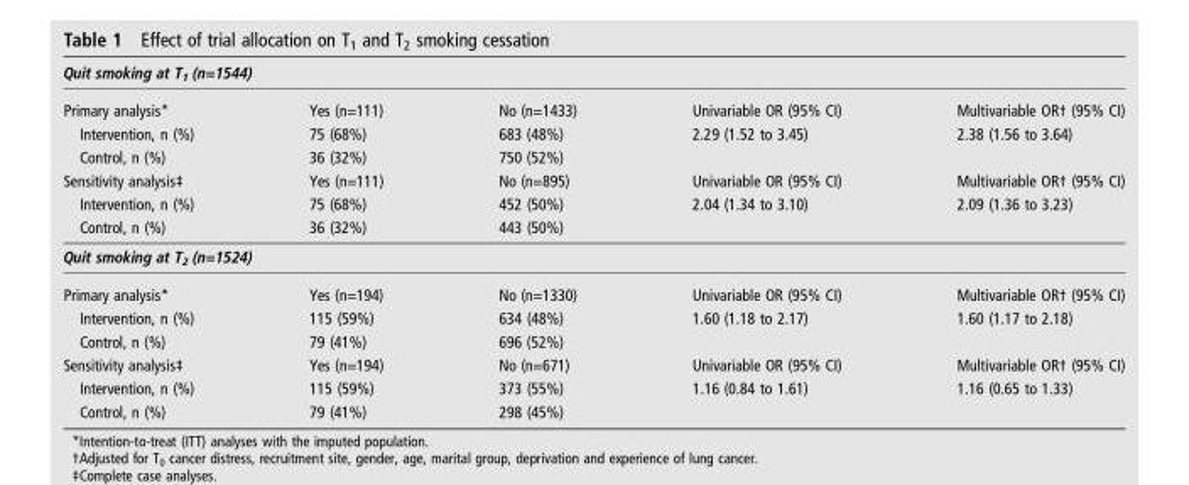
<table><thead><tr><td colspan="5">Quit smoking at T<sub>1</sub> (n=1544)</td></tr><tr><td>Primary analysis*</td><td>Yes (n=111)</td><td>No (n=1433)</td><td>Univariable OR (95% CI)</td><td>Multivariable OR† (95% CI)</td></tr></thead><tbody><tr><td>Intervention, n (%)</td><td>75 (68%)</td><td>683 (48%)</td><td rowspan="2">2.29 (1.52 to 3.45)</td><td rowspan="2">2.38 (1.56 to 3.64)</td></tr><tr><td>Control, n (%)</td><td>36 (32%)</td><td>750 (52%)</td></tr><tr><td>Sensitivity analysis‡</td><td>Yes (n=111)</td><td>No (n=895)</td><td>Univariable OR (95% CI)</td><td>Multivariable OR† (95% CI)</td></tr><tr><td>Intervention, n (%)</td><td>75 (68%)</td><td>452 (50%)</td><td rowspan="2">2.04 (1.34 to 3.10)</td><td rowspan="2">2.09 (1.36 to 3.23)</td></tr><tr><td>Control, n (%)</td><td>36 (32%)</td><td>443 (50%)</td></tr><tr><td colspan="5">Quit smoking at T<sub>2</sub> (n=1524)</td></tr><tr><td>Primary analysis*</td><td>Yes (n=194)</td><td>No (n=1330)</td><td>Univariable OR (95% CI)</td><td>Multivariable OR† (95% CI)</td></tr><tr><td>Intervention, n (%)</td><td>115 (59%)</td><td>634 (48%)</td><td rowspan="2">1.60 (1.18 to 2.17)</td><td rowspan="2">1.60 (1.17 to 2.18)</td></tr><tr><td>Control, n (%)</td><td>79 (41%)</td><td>696 (52%)</td></tr><tr><td>Sensitivity analysis‡</td><td>Yes (n=194)</td><td>No (n=671)</td><td>Univariable OR (95% CI)</td><td>Multivariable OR† (95% CI)</td></tr><tr><td>Intervention, n (%)</td><td>115 (59%)</td><td>373 (55%)</td><td rowspan="2">1.16 (0.84 to 1.61)</td><td rowspan="2">1.16 (0.65 to 1.33)</td></tr><tr><td>Control, n (%)</td><td>79 (41%)</td><td>298 (45%)</td></tr></tbody></table>